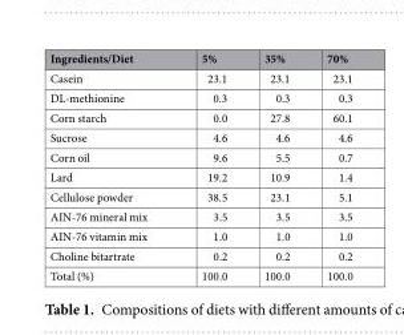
<table><thead><tr><td>Ingredients/Diet</td><td>5%</td><td>35%</td><td>70%</td></tr></thead><tbody><tr><td>Casein</td><td>23.1</td><td>23.1</td><td>23.1</td></tr><tr><td>DL-methionine</td><td>0.3</td><td>0.3</td><td>0.3</td></tr><tr><td>Corn starch</td><td>0.0</td><td>27.8</td><td>60.1</td></tr><tr><td>Sucrose</td><td>4.6</td><td>4.6</td><td>4.6</td></tr><tr><td>Corn oil</td><td>9.6</td><td>5.5</td><td>0.7</td></tr><tr><td>Lard</td><td>19.2</td><td>10.9</td><td>1.4</td></tr><tr><td>Cellulose powder</td><td>38.5</td><td>23.1</td><td>5.1</td></tr><tr><td>AIN-76 mineral mix</td><td>3.5</td><td>3.5</td><td>3.5</td></tr><tr><td>AIN-76 vitamin mix</td><td>1.0</td><td>1.0</td><td>1.0</td></tr><tr><td>Choline bitartrate</td><td>0.2</td><td>0.2</td><td>0.2</td></tr><tr><td>Total (%)</td><td>100.0</td><td>100.0</td><td>100.0</td></tr></tbody></table>